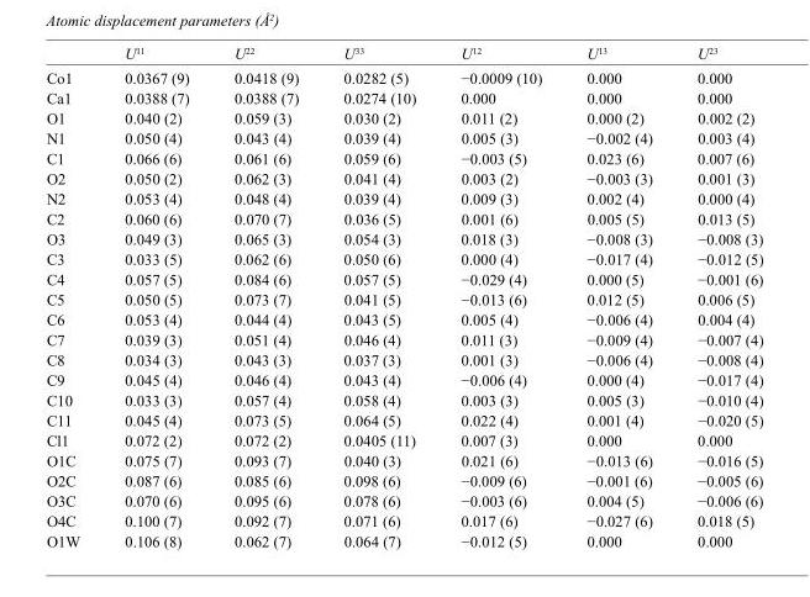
<table><thead><tr><td></td><td>U<sup>11</sup></td><td>U<sup>22</sup></td><td>U<sup>33</sup></td><td>U<sup>12</sup></td><td>U<sup>13</sup></td><td>U<sup>23</sup></td></tr></thead><tbody><tr><td>Co1</td><td>0.0367 (9)</td><td>0.0418 (9)</td><td>0.0282 (5)</td><td>−0.0009 (10)</td><td>0.000</td><td>0.000</td></tr><tr><td>Ca1</td><td>0.0388 (7)</td><td>0.0388 (7)</td><td>0.0274 (10)</td><td>0.000</td><td>0.000</td><td>0.000</td></tr><tr><td>O1</td><td>0.040 (2)</td><td>0.059 (3)</td><td>0.030 (2)</td><td>0.011 (2)</td><td>0.000 (2)</td><td>0.002 (2)</td></tr><tr><td>N1</td><td>0.050 (4)</td><td>0.043 (4)</td><td>0.039 (4)</td><td>0.005 (3)</td><td>−0.002 (4)</td><td>0.003 (4)</td></tr><tr><td>C1</td><td>0.066 (6)</td><td>0.061 (6)</td><td>0.059 (6)</td><td>−0.003 (5)</td><td>0.023 (6)</td><td>0.007 (6)</td></tr><tr><td>O2</td><td>0.050 (2)</td><td>0.062 (3)</td><td>0.041 (4)</td><td>0.003 (2)</td><td>−0.003 (3)</td><td>0.001 (3)</td></tr><tr><td>N2</td><td>0.053 (4)</td><td>0.048 (4)</td><td>0.039 (4)</td><td>0.009 (3)</td><td>0.002 (4)</td><td>0.000 (4)</td></tr><tr><td>C2</td><td>0.060 (6)</td><td>0.070 (7)</td><td>0.036 (5)</td><td>0.001 (6)</td><td>0.005 (5)</td><td>0.013 (5)</td></tr><tr><td>O3</td><td>0.049 (3)</td><td>0.065 (3)</td><td>0.054 (3)</td><td>0.018 (3)</td><td>−0.008 (3)</td><td>−0.008 (3)</td></tr><tr><td>C3</td><td>0.033 (5)</td><td>0.062 (6)</td><td>0.050 (6)</td><td>0.000 (4)</td><td>−0.017 (4)</td><td>−0.012 (5)</td></tr><tr><td>C4</td><td>0.057 (5)</td><td>0.084 (6)</td><td>0.057 (5)</td><td>−0.029 (4)</td><td>0.000 (5)</td><td>−0.001 (6)</td></tr><tr><td>C5</td><td>0.050 (5)</td><td>0.073 (7)</td><td>0.041 (5)</td><td>−0.013 (6)</td><td>0.012 (5)</td><td>0.006 (5)</td></tr><tr><td>C6</td><td>0.053 (4)</td><td>0.044 (4)</td><td>0.043 (5)</td><td>0.005 (4)</td><td>−0.006 (4)</td><td>0.004 (4)</td></tr><tr><td>C7</td><td>0.039 (3)</td><td>0.051 (4)</td><td>0.046 (4)</td><td>0.011 (3)</td><td>−0.009 (4)</td><td>−0.007 (4)</td></tr><tr><td>C8</td><td>0.034 (3)</td><td>0.043 (3)</td><td>0.037 (3)</td><td>0.001 (3)</td><td>−0.006 (4)</td><td>−0.008 (4)</td></tr><tr><td>C9</td><td>0.045 (4)</td><td>0.046 (4)</td><td>0.043 (4)</td><td>−0.006 (4)</td><td>0.000 (4)</td><td>−0.017 (4)</td></tr><tr><td>C10</td><td>0.033 (3)</td><td>0.057 (4)</td><td>0.058 (4)</td><td>0.003 (3)</td><td>0.005 (3)</td><td>−0.010 (4)</td></tr><tr><td>C11</td><td>0.045 (4)</td><td>0.073 (5)</td><td>0.064 (5)</td><td>0.022 (4)</td><td>0.001 (4)</td><td>−0.020 (5)</td></tr><tr><td>Cl1</td><td>0.072 (2)</td><td>0.072 (2)</td><td>0.0405 (11)</td><td>0.007 (3)</td><td>0.000</td><td>0.000</td></tr><tr><td>O1C</td><td>0.075 (7)</td><td>0.093 (7)</td><td>0.040 (3)</td><td>0.021 (6)</td><td>−0.013 (6)</td><td>−0.016 (5)</td></tr><tr><td>O2C</td><td>0.087 (6)</td><td>0.085 (6)</td><td>0.098 (6)</td><td>−0.009 (6)</td><td>−0.001 (6)</td><td>−0.005 (6)</td></tr><tr><td>O3C</td><td>0.070 (6)</td><td>0.095 (6)</td><td>0.078 (6)</td><td>−0.003 (6)</td><td>0.004 (5)</td><td>−0.006 (6)</td></tr><tr><td>O4C</td><td>0.100 (7)</td><td>0.092 (7)</td><td>0.071 (6)</td><td>0.017 (6)</td><td>−0.027 (6)</td><td>0.018 (5)</td></tr><tr><td>O1W</td><td>0.106 (8)</td><td>0.062 (7)</td><td>0.064 (7)</td><td>−0.012 (5)</td><td>0.000</td><td>0.000</td></tr></tbody></table>